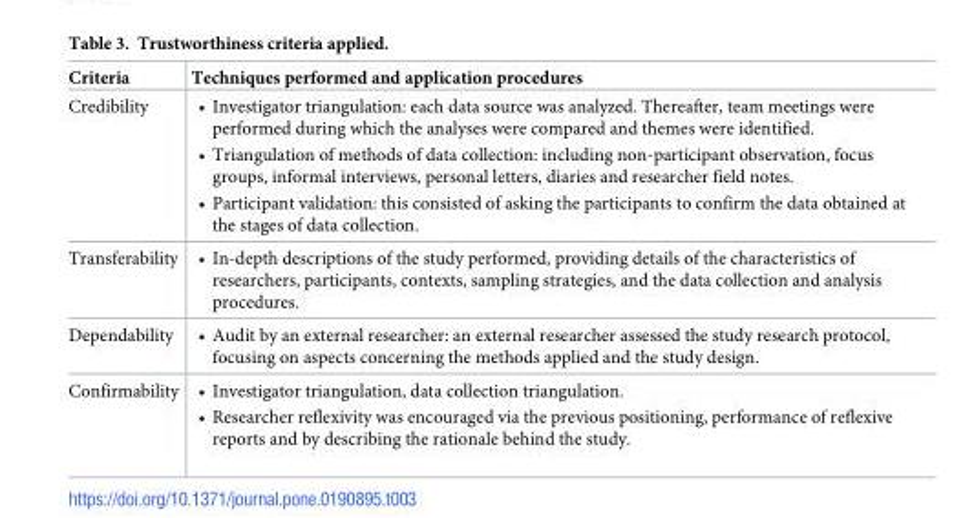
<table><thead><tr><td>Criteria</td><td>Techniques performed and application procedures</td></tr></thead><tbody><tr><td>Credibility</td><td>• Investigator triangulation: each data source was analyzed. Thereafter, team meetings were performed during which the analyses were compared and themes were identified. • Triangulation of methods of data collection: including non-participant observation, focus groups, informal interviews, personal letters, diaries and researcher field notes. • Participant validation: this consisted of asking the participants to confirm the data obtained at the stages of data collection.</td></tr><tr><td>Transferability</td><td>• In-depth descriptions of the study performed, providing details of the characteristics of researchers, participants, contexts, sampling strategies, and the data collection and analysis procedures.</td></tr><tr><td>Dependability</td><td>• Audit by an external researcher: an external researcher assessed the study research protocol, focusing on aspects concerning the methods applied and the study design.</td></tr><tr><td>Confirmability</td><td>• Investigator triangulation, data collection triangulation. • Researcher reflexivity was encouraged via the previous positioning, performance of reflexive reports and by describing the rationale behind the study.</td></tr></tbody></table>